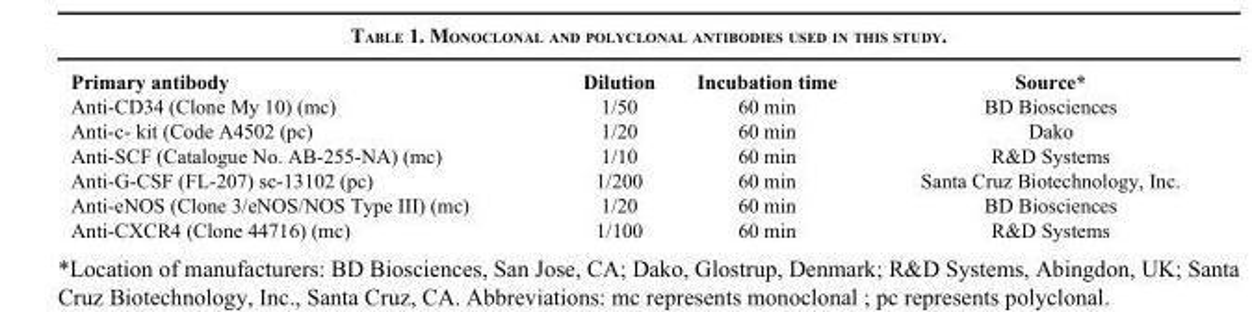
<table><thead><tr><td>Primary antibody</td><td>Dilution</td><td>Incubation time</td><td>Source*</td></tr></thead><tbody><tr><td>Anti-CD34 (Clone My 10) (mc)</td><td>1/50</td><td>60 min</td><td>BD Biosciences</td></tr><tr><td>Anti-c- kit (Code A4502 (pc)</td><td>1/20</td><td>60 min</td><td>Dako</td></tr><tr><td>Anti-SCF (Catalogue No. AB-255-NA) (mc)</td><td>1/10</td><td>60 min</td><td>R&amp;D Systems</td></tr><tr><td>Anti-G-CSF (FL-207) sc-13102 (pc)</td><td>1/200</td><td>60 min</td><td>Santa Cruz Biotechnology, Inc.</td></tr><tr><td>Anti-eNOS (Clone 3/eNOS/NOS Type III) (mc)</td><td>1/20</td><td>60 min</td><td>BD Biosciences</td></tr><tr><td>Anti-CXCR4 (Clone 44716) (mc)</td><td>1/100</td><td>60 min</td><td>R&amp;D Systems</td></tr></tbody></table>